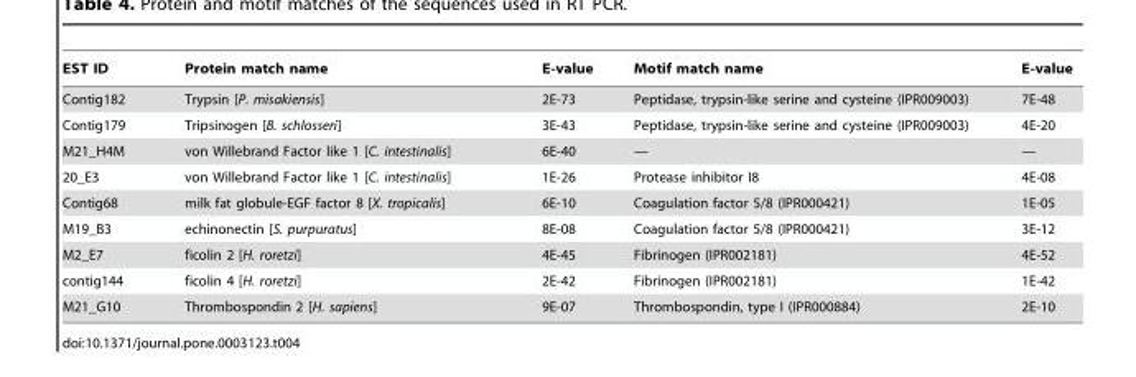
<table><thead><tr><td>EST ID</td><td>Protein match name</td><td>E-value</td><td>Motif match name</td><td>E-value</td></tr></thead><tbody><tr><td>Contig182</td><td>Trypsin [P. misakiensis]</td><td>2E-73</td><td>Peptidase, trypsin-like serine and cysteine (IPR009003)</td><td>7E-48</td></tr><tr><td>Contig179</td><td>Tripsinogen [B. schlosseri]</td><td>3E-43</td><td>Peptidase, trypsin-like serine and cysteine (IPR009003)</td><td>4E-20</td></tr><tr><td>M21_H4M</td><td>von Willebrand Factor like 1 [C. intestinalis]</td><td>6E-40</td><td>—</td><td>—</td></tr><tr><td>20_E3</td><td>von Willebrand Factor like 1 [C. intestinalis]</td><td>1E-26</td><td>Protease inhibitor I8</td><td>4E-08</td></tr><tr><td>Contig68</td><td>milk fat globule-EGF factor 8 [X. tropicalis]</td><td>6E-10</td><td>Coagulation factor 5/8 (IPR000421)</td><td>1E-05</td></tr><tr><td>M19_B3</td><td>echinonectin [S. purpuratus]</td><td>8E-08</td><td>Coagulation factor 5/8 (IPR000421)</td><td>3E-12</td></tr><tr><td>M2_E7</td><td>ficolin 2 [H. roretzi]</td><td>4E-45</td><td>Fibrinogen (IPR002181)</td><td>4E-52</td></tr><tr><td>contig144</td><td>ficolin 4 [H. roretzi]</td><td>2E-42</td><td>Fibrinogen (IPR002181)</td><td>1E-42</td></tr><tr><td>M21_G10</td><td>Thrombospondin 2 [H. sapiens]</td><td>9E-07</td><td>Thrombospondin, type I (IPR000884)</td><td>2E-10</td></tr></tbody></table>